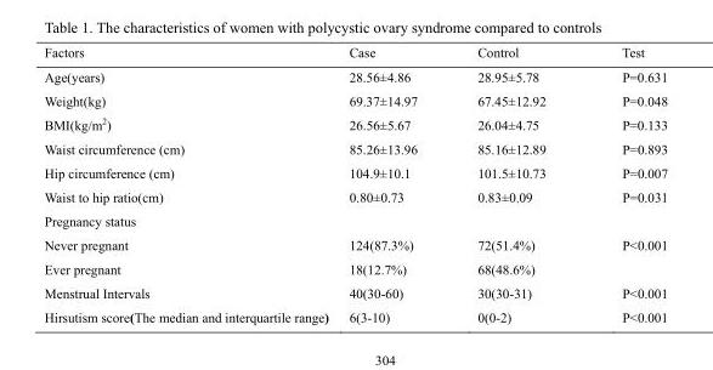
<table><thead><tr><td>Factors</td><td>Case</td><td>Control</td><td>Test</td></tr></thead><tbody><tr><td>Age(years)</td><td>28.56±4.86</td><td>28.95±5.78</td><td>P=0.631</td></tr><tr><td>Weight(kg)</td><td>69.37±14.97</td><td>67.45±12.92</td><td>P=0.048</td></tr><tr><td>BMI(kg/m<sup>2</sup>)</td><td>26.56±5.67</td><td>26.04±4.75</td><td>P=0.133</td></tr><tr><td>Waist circumference (cm)</td><td>85.26±13.96</td><td>85.16±12.89</td><td>P=0.893</td></tr><tr><td>Hip circumference (cm)</td><td>104.9±10.1</td><td>101.5±10.73</td><td>P=0.007</td></tr><tr><td>Waist to hip ratio(cm)</td><td>0.80±0.73</td><td>0.83±0.09</td><td>P=0.031</td></tr><tr><td colspan="4">Pregnancy status</td></tr><tr><td>Never pregnant</td><td>124(87.3%)</td><td>72(51.4%)</td><td>P&lt;0.001</td></tr><tr><td>Ever pregnant</td><td>18(12.7%)</td><td>68(48.6%)</td><td></td></tr><tr><td>Menstrual Intervals</td><td>40(30-60)</td><td>30(30-31)</td><td>P&lt;0.001</td></tr><tr><td>Hirsutism score(The median and interquartile range)</td><td>6(3-10)</td><td>0(0-2)</td><td>P&lt;0.001</td></tr></tbody></table>